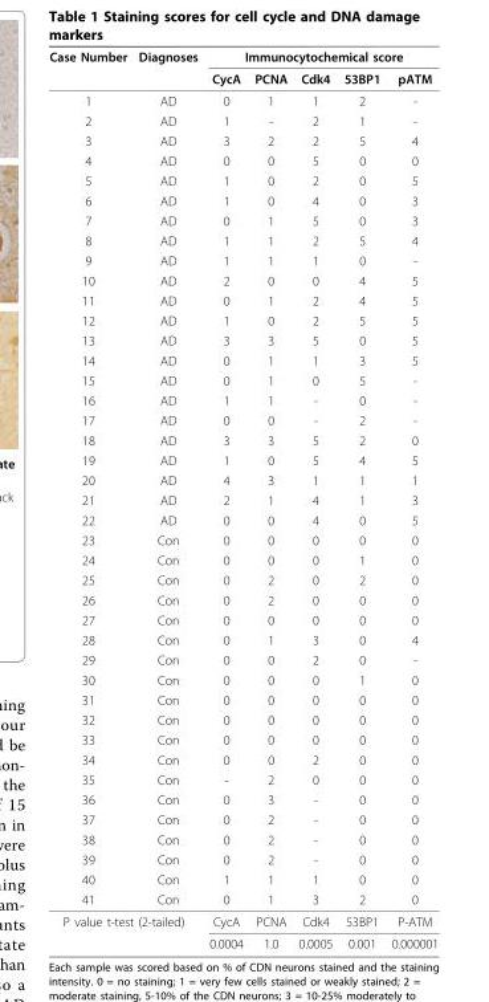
<table><thead><tr><td rowspan="2">Case Number</td><td rowspan="2">Diagnoses</td><td colspan="5">Immunocytochemical score</td></tr><tr><td>CycA</td><td>PCNA</td><td>Cdk4</td><td>53BP1</td><td>pATM</td></tr></thead><tbody><tr><td>1</td><td>AD</td><td>0</td><td>1</td><td>1</td><td>2</td><td>-</td></tr><tr><td>2</td><td>AD</td><td>1</td><td>-</td><td>2</td><td>1</td><td>-</td></tr><tr><td>3</td><td>AD</td><td>3</td><td>2</td><td>2</td><td>5</td><td>4</td></tr><tr><td>4</td><td>AD</td><td>0</td><td>0</td><td>5</td><td>0</td><td>0</td></tr><tr><td>5</td><td>AD</td><td>1</td><td>0</td><td>2</td><td>0</td><td>5</td></tr><tr><td>6</td><td>AD</td><td>1</td><td>0</td><td>4</td><td>0</td><td>3</td></tr><tr><td>7</td><td>AD</td><td>0</td><td>1</td><td>5</td><td>0</td><td>3</td></tr><tr><td>8</td><td>AD</td><td>1</td><td>1</td><td>2</td><td>5</td><td>4</td></tr><tr><td>9</td><td>AD</td><td>1</td><td>1</td><td>1</td><td>0</td><td>-</td></tr><tr><td>10</td><td>AD</td><td>2</td><td>0</td><td>0</td><td>4</td><td>5</td></tr><tr><td>11</td><td>AD</td><td>0</td><td>1</td><td>2</td><td>4</td><td>5</td></tr><tr><td>12</td><td>AD</td><td>1</td><td>0</td><td>2</td><td>5</td><td>5</td></tr><tr><td>13</td><td>AD</td><td>3</td><td>3</td><td>5</td><td>0</td><td>5</td></tr><tr><td>14</td><td>AD</td><td>0</td><td>1</td><td>1</td><td>3</td><td>5</td></tr><tr><td>15</td><td>AD</td><td>0</td><td>1</td><td>0</td><td>5</td><td>-</td></tr><tr><td>16</td><td>AD</td><td>1</td><td>1</td><td>-</td><td>0</td><td>-</td></tr><tr><td>17</td><td>AD</td><td>0</td><td>0</td><td>-</td><td>2</td><td>-</td></tr><tr><td>18</td><td>AD</td><td>3</td><td>3</td><td>5</td><td>2</td><td>0</td></tr><tr><td>19</td><td>AD</td><td>1</td><td>0</td><td>5</td><td>4</td><td>5</td></tr><tr><td>20</td><td>AD</td><td>4</td><td>3</td><td>1</td><td>1</td><td>1</td></tr><tr><td>21</td><td>AD</td><td>2</td><td>1</td><td>4</td><td>1</td><td>3</td></tr><tr><td>22</td><td>AD</td><td>0</td><td>0</td><td>4</td><td>0</td><td>5</td></tr><tr><td>23</td><td>Con</td><td>0</td><td>0</td><td>0</td><td>0</td><td>0</td></tr><tr><td>24</td><td>Con</td><td>0</td><td>0</td><td>0</td><td>1</td><td>0</td></tr><tr><td>25</td><td>Con</td><td>0</td><td>2</td><td>0</td><td>2</td><td>0</td></tr><tr><td>26</td><td>Con</td><td>0</td><td>2</td><td>0</td><td>0</td><td>0</td></tr><tr><td>27</td><td>Con</td><td>0</td><td>0</td><td>0</td><td>0</td><td>0</td></tr><tr><td>28</td><td>Con</td><td>0</td><td>1</td><td>3</td><td>0</td><td>4</td></tr><tr><td>29</td><td>Con</td><td>0</td><td>0</td><td>2</td><td>0</td><td>-</td></tr><tr><td>30</td><td>Con</td><td>0</td><td>0</td><td>0</td><td>1</td><td>0</td></tr><tr><td>31</td><td>Con</td><td>0</td><td>0</td><td>0</td><td>0</td><td>0</td></tr><tr><td>32</td><td>Con</td><td>0</td><td>0</td><td>0</td><td>0</td><td>0</td></tr><tr><td>33</td><td>Con</td><td>0</td><td>0</td><td>0</td><td>0</td><td>0</td></tr><tr><td>34</td><td>Con</td><td>0</td><td>0</td><td>2</td><td>0</td><td>0</td></tr><tr><td>35</td><td>Con</td><td>-</td><td>2</td><td>0</td><td>0</td><td>0</td></tr><tr><td>36</td><td>Con</td><td>0</td><td>3</td><td>-</td><td>0</td><td>0</td></tr><tr><td>37</td><td>Con</td><td>0</td><td>2</td><td>-</td><td>0</td><td>0</td></tr><tr><td>38</td><td>Con</td><td>0</td><td>2</td><td>-</td><td>0</td><td>0</td></tr><tr><td>39</td><td>Con</td><td>0</td><td>2</td><td>-</td><td>0</td><td>0</td></tr><tr><td>40</td><td>Con</td><td>1</td><td>1</td><td>1</td><td>0</td><td>0</td></tr><tr><td>41</td><td>Con</td><td>0</td><td>1</td><td>3</td><td>2</td><td>0</td></tr><tr><td colspan="2">P value t-test (2-tailed)</td><td>CycA</td><td>PCNA</td><td>Cdk4</td><td>53BP1</td><td>P-ATM</td></tr><tr><td></td><td></td><td>0.0004</td><td>1.0</td><td>0.0005</td><td>0.001</td><td>0.000001</td></tr></tbody></table>